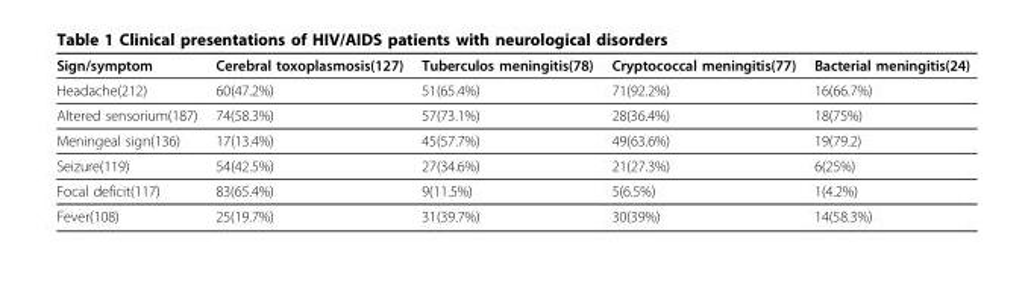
<table><thead><tr><td>Sign/symptom</td><td>Cerebral toxoplasmosis(127)</td><td>Tuberculos meningitis(78)</td><td>Cryptococcal meningitis(77)</td><td>Bacterial meningitis(24)</td></tr></thead><tbody><tr><td>Headache(212)</td><td>60(47.2%)</td><td>51(65.4%)</td><td>71(92.2%)</td><td>16(66.7%)</td></tr><tr><td>Altered sensorium(187)</td><td>74(58.3%)</td><td>57(73.1%)</td><td>28(36.4%)</td><td>18(75%)</td></tr><tr><td>Meningeal sign(136)</td><td>17(13.4%)</td><td>45(57.7%)</td><td>49(63.6%)</td><td>19(79.2)</td></tr><tr><td>Seizure(119)</td><td>54(42.5%)</td><td>27(34.6%)</td><td>21(27.3%)</td><td>6(25%)</td></tr><tr><td>Focal deficit(117)</td><td>83(65.4%)</td><td>9(11.5%)</td><td>5(6.5%)</td><td>1(4.2%)</td></tr><tr><td>Fever(108)</td><td>25(19.7%)</td><td>31(39.7%)</td><td>30(39%)</td><td>14(58.3%)</td></tr></tbody></table>